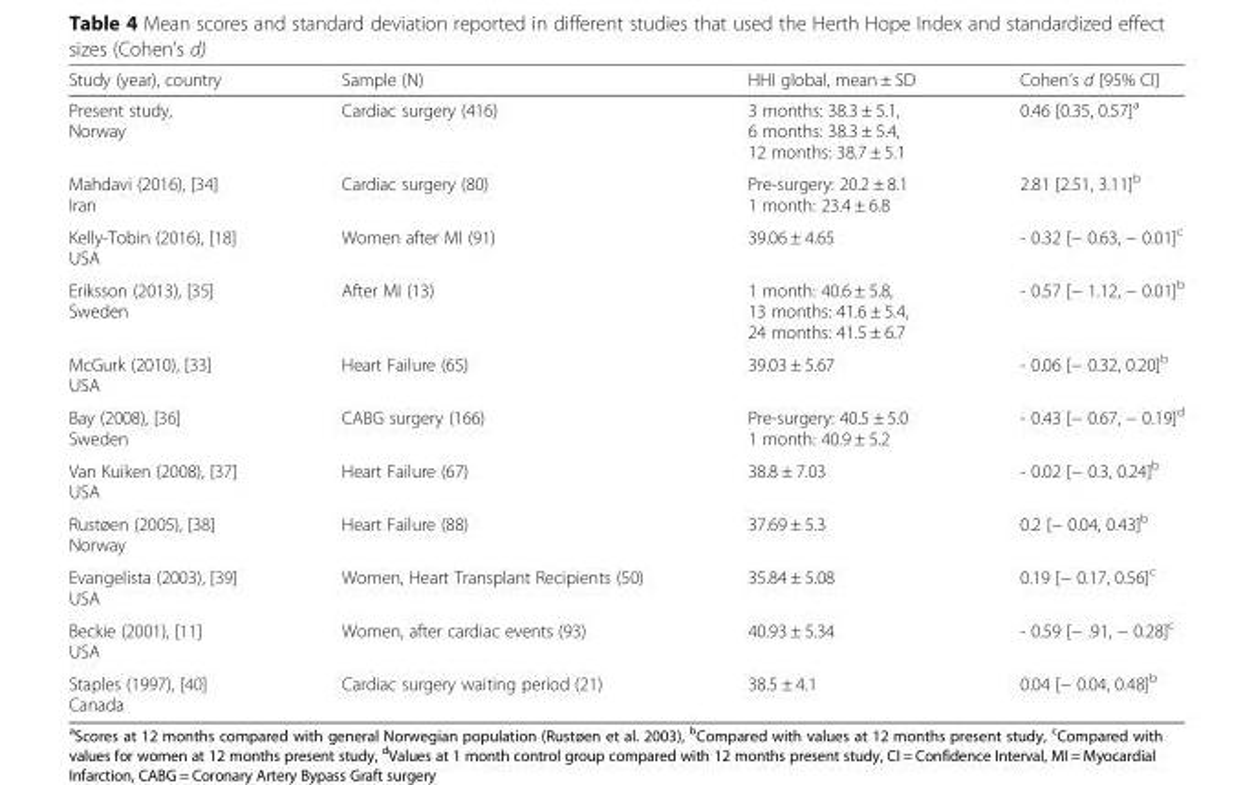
<table><thead><tr><td>Study (year), country</td><td>Sample (N)</td><td>HHI global, mean ± SD</td><td>Cohen’s d [95% CI]</td></tr></thead><tbody><tr><td>Present study, Norway</td><td>Cardiac surgery (416)</td><td>3 months: 38.3 ± 5.1, 6 months: 38.3 ± 5.4, 12 months: 38.7 ± 5.1</td><td>0.46 [0.35, 0.57]<sup>a</sup></td></tr><tr><td>Mahdavi (2016), [34] Iran</td><td>Cardiac surgery (80)</td><td>Pre-surgery: 20.2 ± 8.1 1 month: 23.4 ± 6.8</td><td>2.81 [2.51, 3.11]<sup>b</sup></td></tr><tr><td>Kelly-Tobin (2016), [18] USA</td><td>Women after MI (91)</td><td>39.06 ± 4.65</td><td>- 0.32 [− 0.63, − 0.01]<sup>c</sup></td></tr><tr><td>Eriksson (2013), [35] Sweden</td><td>After MI (13)</td><td>1 month: 40.6 ± 5.8, 13 months: 41.6 ± 5.4, 24 months: 41.5 ± 6.7</td><td>- 0.57 [− 1.12, − 0.01]<sup>b</sup></td></tr><tr><td>McGurk (2010), [33] USA</td><td>Heart Failure (65)</td><td>39.03 ± 5.67</td><td>- 0.06 [− 0.32, 0.20]<sup>b</sup></td></tr><tr><td>Bay (2008), [36] Sweden</td><td>CABG surgery (166)</td><td>Pre-surgery: 40.5 ± 5.0 1 month: 40.9 ± 5.2</td><td>- 0.43 [− 0.67, − 0.19]<sup>d</sup></td></tr><tr><td>Van Kuiken (2008), [37] USA</td><td>Heart Failure (67)</td><td>38.8 ± 7.03</td><td>- 0.02 [− 0.3, 0.24]<sup>b</sup></td></tr><tr><td>Rustøen (2005), [38] Norway</td><td>Heart Failure (88)</td><td>37.69 ± 5.3</td><td>0.2 [− 0.04, 0.43]<sup>b</sup></td></tr><tr><td>Evangelista (2003), [39] USA</td><td>Women, Heart Transplant Recipients (50)</td><td>35.84 ± 5.08</td><td>0.19 [− 0.17, 0.56]<sup>c</sup></td></tr><tr><td>Beckie (2001), [11] USA</td><td>Women, after cardiac events (93)</td><td>40.93 ± 5.34</td><td>- 0.59 [− .91, − 0.28]<sup>c</sup></td></tr><tr><td>Staples (1997), [40] Canada</td><td>Cardiac surgery waiting period (21)</td><td>38.5 ± 4.1</td><td>0.04 [− 0.04, 0.48]<sup>b</sup></td></tr></tbody></table>